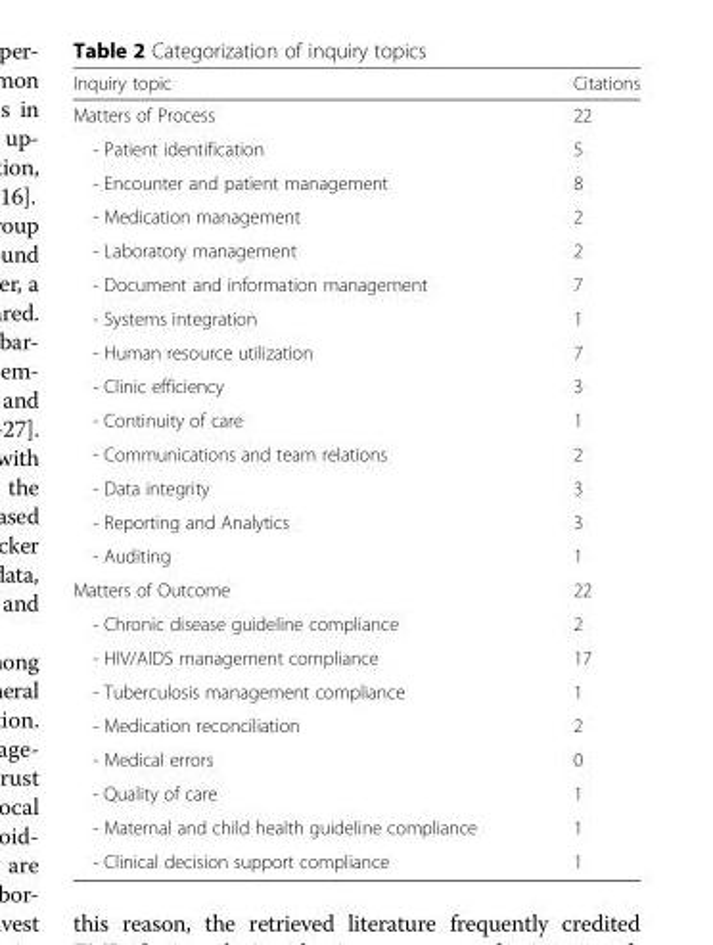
<table><thead><tr><td>Inquiry topic</td><td>Citations</td></tr></thead><tbody><tr><td>Matters of Process</td><td>22</td></tr><tr><td>- Patient identification</td><td>5</td></tr><tr><td>- Encounter and patient management</td><td>8</td></tr><tr><td>- Medication management</td><td>2</td></tr><tr><td>- Laboratory management</td><td>2</td></tr><tr><td>- Document and information management</td><td>7</td></tr><tr><td>- Systems integration</td><td>1</td></tr><tr><td>- Human resource utilization</td><td>7</td></tr><tr><td>- Clinic efficiency</td><td>3</td></tr><tr><td>- Continuity of care</td><td>1</td></tr><tr><td>- Communications and team relations</td><td>2</td></tr><tr><td>- Data integrity</td><td>3</td></tr><tr><td>- Reporting and Analytics</td><td>3</td></tr><tr><td>- Auditing</td><td>1</td></tr><tr><td>Matters of Outcome</td><td>22</td></tr><tr><td>- Chronic disease guideline compliance</td><td>2</td></tr><tr><td>- HIV/AIDS management compliance</td><td>17</td></tr><tr><td>- Tuberculosis management compliance</td><td>1</td></tr><tr><td>- Medication reconciliation</td><td>2</td></tr><tr><td>- Medical errors</td><td>0</td></tr><tr><td>- Quality of care</td><td>1</td></tr><tr><td>- Maternal and child health guideline compliance</td><td>1</td></tr><tr><td>- Clinical decision support compliance</td><td>1</td></tr></tbody></table>